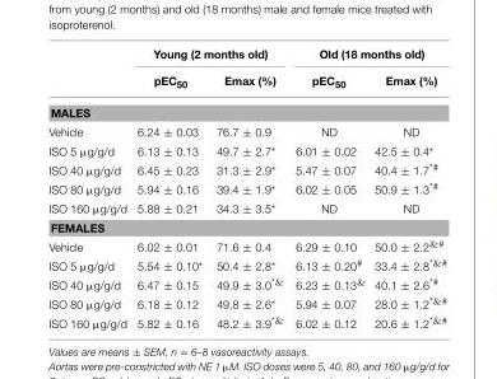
<table><thead><tr><td rowspan="2"></td><td colspan="2">Young (2 months old)</td><td colspan="2">Old (18 months old)</td></tr><tr><td>pEC<sub>50</sub></td><td>Emax (%)</td><td>pEC<sub>50</sub></td><td>Emax (%)</td></tr></thead><tbody><tr><td colspan="5">MALES</td></tr><tr><td>Vehicle</td><td>6.24 ± 0.03</td><td>76.7 ± 0.9</td><td>ND</td><td>ND</td></tr><tr><td>ISO 5 µg/g/d</td><td>6.13 ± 0.13</td><td>49.7 ± 2.7*</td><td>6.01 ± 0.02</td><td>42.5 ± 0.4*</td></tr><tr><td>ISO 40 µg/g/d</td><td>6.45 ± 0.23</td><td>31.3 ± 2.9*</td><td>5.47 ± 0.07</td><td>40.4 ± 1.7<sup>*#</sup></td></tr><tr><td>ISO 80 µg/g/d</td><td>5.94 ± 0.16</td><td>39.4 ± 1.9*</td><td>6.02 ± 0.05</td><td>50.9 ± 1.3<sup>*#</sup></td></tr><tr><td>ISO 160 µg/g/d</td><td>5.88 ± 0.21</td><td>34.3 ± 3.5*</td><td>ND</td><td>ND</td></tr><tr><td colspan="5">FEMALES</td></tr><tr><td>Vehicle</td><td>6.02 ± 0.01</td><td>71.6 ± 0.4</td><td>6.29 ± 0.10</td><td>50.0 ± 2.2<sup>&amp;#</sup></td></tr><tr><td>ISO 5 µg/g/d</td><td>5.54 ± 0.10*</td><td>50.4 ± 2.8*</td><td>6.13 ± 0.20<sup>#</sup></td><td>33.4 ± 2.8<sup>*&amp;#</sup></td></tr><tr><td>ISO 40 µg/g/d</td><td>6.47 ± 0.15</td><td>49.9 ± 3.0<sup>*&amp;</sup></td><td>6.23 ± 0.13<sup>&amp;</sup></td><td>40.1 ± 2.6<sup>*#</sup></td></tr><tr><td>ISO 80 µg/g/d</td><td>6.18 ± 0.12</td><td>49.8 ± 2.6*</td><td>5.94 ± 0.07</td><td>28.0 ± 1.2<sup>*&amp;#</sup></td></tr><tr><td>ISO 160 µg/g/d</td><td>5.82 ± 0.16</td><td>48.2 ± 3.9<sup>*&amp;</sup></td><td>6.02 ± 0.12</td><td>20.6 ± 1.2<sup>*&amp;#</sup></td></tr></tbody></table>